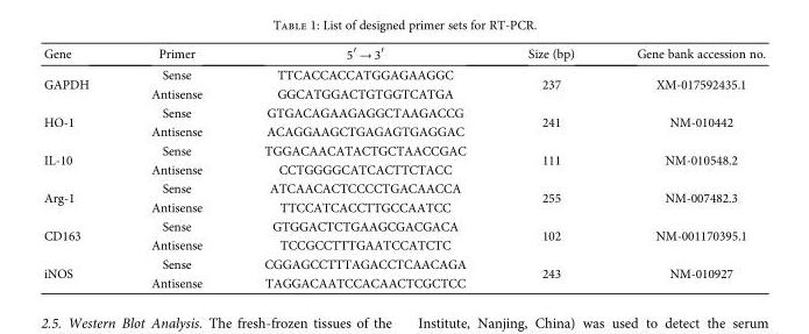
<table><thead><tr><td>Gene</td><td>Primer</td><td>5′ → 3′</td><td>Size (bp)</td><td>Gene bank accession no.</td></tr></thead><tbody><tr><td rowspan="2">GAPDH</td><td>Sense</td><td>TTCACCACCATGGAGAAGGC</td><td rowspan="2">237</td><td rowspan="2">XM-017592435.1</td></tr><tr><td>Antisense</td><td>GGCATGGACTGTGGTCATGA</td></tr><tr><td rowspan="2">HO-1</td><td>Sense</td><td>GTGACAGAAGAGGCTAAGACCG</td><td rowspan="2">241</td><td rowspan="2">NM-010442</td></tr><tr><td>Antisense</td><td>ACAGGAAGCTGAGAGTGAGGAC</td></tr><tr><td rowspan="2">IL-10</td><td>Sense</td><td>TGGACAACATACTGCTAACCGAC</td><td rowspan="2">111</td><td rowspan="2">NM-010548.2</td></tr><tr><td>Antisense</td><td>CCTGGGGCATCACTTCTACC</td></tr><tr><td rowspan="2">Arg-1</td><td>Sense</td><td>ATCAACACTCCCCTGACAACCA</td><td rowspan="2">255</td><td rowspan="2">NM-007482.3</td></tr><tr><td>Antisense</td><td>TTCCATCACCTTGCCAATCC</td></tr><tr><td rowspan="2">CD163</td><td>Sense</td><td>GTGGACTCTGAAGCGACGACA</td><td rowspan="2">102</td><td rowspan="2">NM-001170395.1</td></tr><tr><td>Antisense</td><td>TCCGCCTTTGAATCCATCTC</td></tr><tr><td rowspan="2">iNOS</td><td>Sense</td><td>CGGAGCCTTTAGACCTCAACAGA</td><td rowspan="2">243</td><td rowspan="2">NM-010927</td></tr><tr><td>Antisense</td><td>TAGGACAATCCACAACTCGCTCC</td></tr></tbody></table>